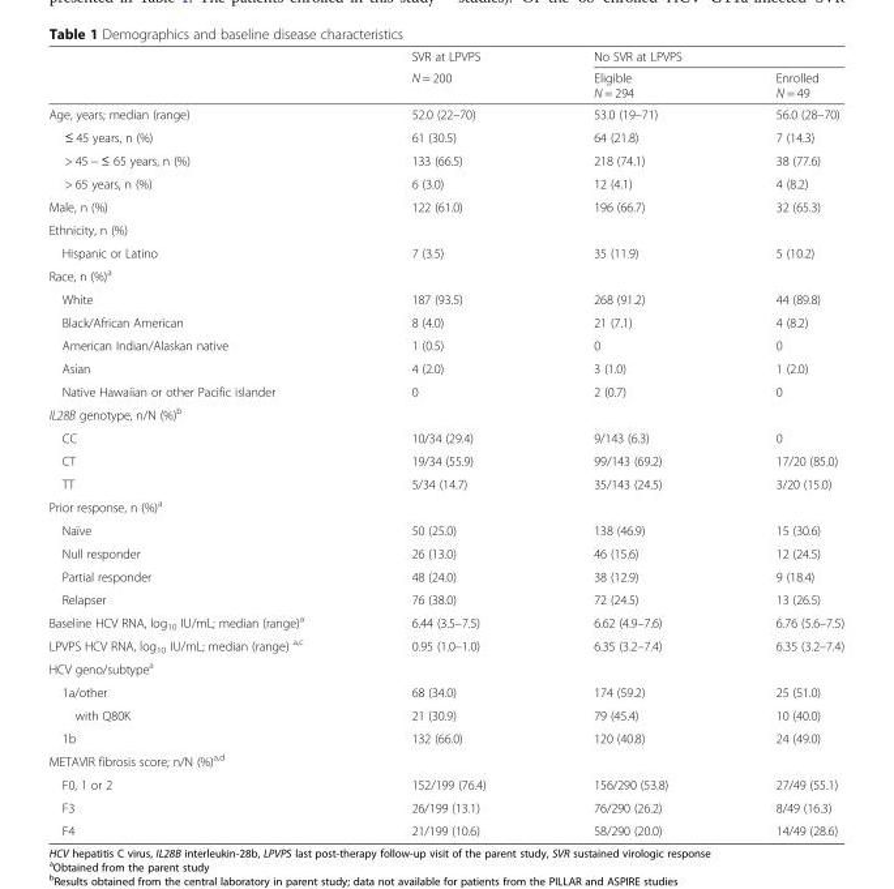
<table><thead><tr><td rowspan="2"></td><td rowspan="2">SVR at LPVPS N = 200</td><td colspan="2">No SVR at LPVPS</td></tr><tr><td>Eligible N = 294</td><td>Enrolled N = 49</td></tr></thead><tbody><tr><td>Age, years; median (range)</td><td>52.0 (22–70)</td><td>53.0 (19–71)</td><td>56.0 (28–70)</td></tr><tr><td>≤ 45 years, n (%)</td><td>61 (30.5)</td><td>64 (21.8)</td><td>7 (14.3)</td></tr><tr><td>&gt; 45 − ≤ 65 years, n (%)</td><td>133 (66.5)</td><td>218 (74.1)</td><td>38 (77.6)</td></tr><tr><td>&gt; 65 years, n (%)</td><td>6 (3.0)</td><td>12 (4.1)</td><td>4 (8.2)</td></tr><tr><td>Male, n (%)</td><td>122 (61.0)</td><td>196 (66.7)</td><td>32 (65.3)</td></tr><tr><td colspan="4">Ethnicity, n (%)</td></tr><tr><td>Hispanic or Latino</td><td>7 (3.5)</td><td>35 (11.9)</td><td>5 (10.2)</td></tr><tr><td colspan="4">Race, n (%)<sup>a</sup></td></tr><tr><td>White</td><td>187 (93.5)</td><td>268 (91.2)</td><td>44 (89.8)</td></tr><tr><td>Black/African American</td><td>8 (4.0)</td><td>21 (7.1)</td><td>4 (8.2)</td></tr><tr><td>American Indian/Alaskan native</td><td>1 (0.5)</td><td>0</td><td>0</td></tr><tr><td>Asian</td><td>4 (2.0)</td><td>3 (1.0)</td><td>1 (2.0)</td></tr><tr><td>Native Hawaiian or other Pacific islander</td><td>0</td><td>2 (0.7)</td><td>0</td></tr><tr><td colspan="4">IL28B genotype, n/N (%)<sup>b</sup></td></tr><tr><td>CC</td><td>10/34 (29.4)</td><td>9/143 (6.3)</td><td>0</td></tr><tr><td>CT</td><td>19/34 (55.9)</td><td>99/143 (69.2)</td><td>17/20 (85.0)</td></tr><tr><td>TT</td><td>5/34 (14.7)</td><td>35/143 (24.5)</td><td>3/20 (15.0)</td></tr><tr><td colspan="4">Prior response, n (%)<sup>a</sup></td></tr><tr><td>Naïve</td><td>50 (25.0)</td><td>138 (46.9)</td><td>15 (30.6)</td></tr><tr><td>Null responder</td><td>26 (13.0)</td><td>46 (15.6)</td><td>12 (24.5)</td></tr><tr><td>Partial responder</td><td>48 (24.0)</td><td>38 (12.9)</td><td>9 (18.4)</td></tr><tr><td>Relapser</td><td>76 (38.0)</td><td>72 (24.5)</td><td>13 (26.5)</td></tr><tr><td>Baseline HCV RNA, log<sub>10</sub> IU/mL; median (range)<sup>a</sup></td><td>6.44 (3.5–7.5)</td><td>6.62 (4.9–7.6)</td><td>6.76 (5.6–7.5)</td></tr><tr><td>LPVPS HCV RNA, log<sub>10</sub> IU/mL; median (range) <sup>a,c</sup></td><td>0.95 (1.0–1.0)</td><td>6.35 (3.2–7.4)</td><td>6.35 (3.2–7.4)</td></tr><tr><td colspan="4">HCV geno/subtype<sup>a</sup></td></tr><tr><td>1a/other</td><td>68 (34.0)</td><td>174 (59.2)</td><td>25 (51.0)</td></tr><tr><td>with Q80K</td><td>21 (30.9)</td><td>79 (45.4)</td><td>10 (40.0)</td></tr><tr><td>1b</td><td>132 (66.0)</td><td>120 (40.8)</td><td>24 (49.0)</td></tr><tr><td colspan="4">METAVIR fibrosis score; n/N (%)<sup>a,d</sup></td></tr><tr><td>F0, 1 or 2</td><td>152/199 (76.4)</td><td>156/290 (53.8)</td><td>27/49 (55.1)</td></tr><tr><td>F3</td><td>26/199 (13.1)</td><td>76/290 (26.2)</td><td>8/49 (16.3)</td></tr><tr><td>F4</td><td>21/199 (10.6)</td><td>58/290 (20.0)</td><td>14/49 (28.6)</td></tr></tbody></table>